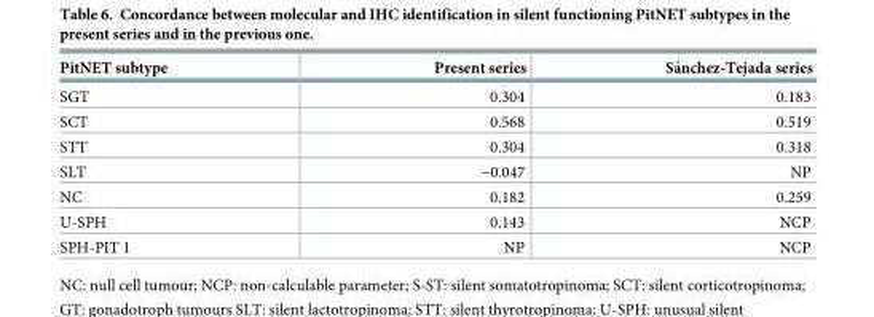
<table><thead><tr><td>PitNET subtype</td><td>Present series</td><td>Sa´nchez-Tejada series</td></tr></thead><tbody><tr><td>SGT</td><td>0.304</td><td>0.183</td></tr><tr><td>SCT</td><td>0.568</td><td>0.519</td></tr><tr><td>STT</td><td>0.304</td><td>0.318</td></tr><tr><td>SLT</td><td>−0.047</td><td>NP</td></tr><tr><td>NC</td><td>0.182</td><td>0.259</td></tr><tr><td>U-SPH</td><td>0.143</td><td>NCP</td></tr><tr><td>SPH-PIT 1</td><td>NP</td><td>NCP</td></tr></tbody></table>